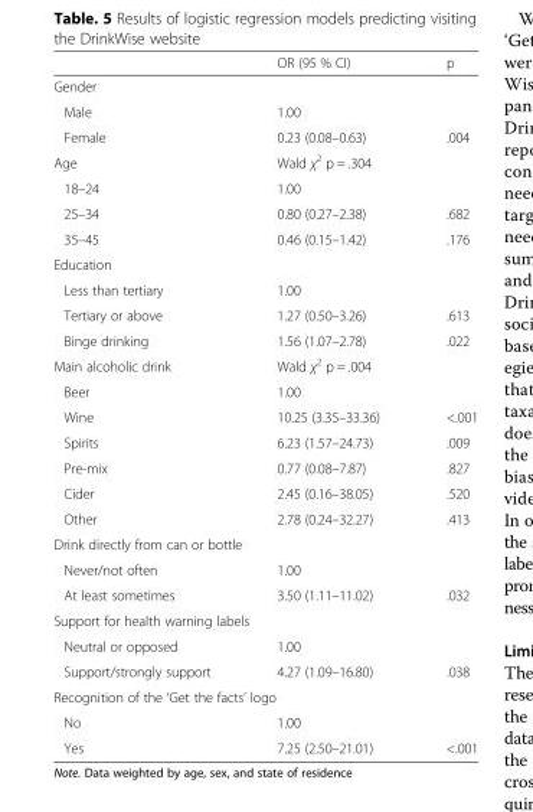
<table><thead><tr><td></td><td>OR (95 % CI)</td><td>p</td></tr></thead><tbody><tr><td colspan="3">Gender</td></tr><tr><td>Male</td><td>1.00</td><td></td></tr><tr><td>Female</td><td>0.23 (0.08–0.63)</td><td>.004</td></tr><tr><td>Age</td><td>Wald χ<sup>2</sup> p = .304</td><td></td></tr><tr><td>18–24</td><td>1.00</td><td></td></tr><tr><td>25–34</td><td>0.80 (0.27–2.38)</td><td>.682</td></tr><tr><td>35–45</td><td>0.46 (0.15–1.42)</td><td>.176</td></tr><tr><td colspan="3">Education</td></tr><tr><td>Less than tertiary</td><td>1.00</td><td></td></tr><tr><td>Tertiary or above</td><td>1.27 (0.50–3.26)</td><td>.613</td></tr><tr><td>Binge drinking</td><td>1.56 (1.07–2.78)</td><td>.022</td></tr><tr><td>Main alcoholic drink</td><td>Wald χ<sup>2</sup> p = .004</td><td></td></tr><tr><td>Beer</td><td>1.00</td><td></td></tr><tr><td>Wine</td><td>10.25 (3.35–33.36)</td><td>&lt;.001</td></tr><tr><td>Spirits</td><td>6.23 (1.57–24.73)</td><td>.009</td></tr><tr><td>Pre-mix</td><td>0.77 (0.08–7.87)</td><td>.827</td></tr><tr><td>Cider</td><td>2.45 (0.16–38.05)</td><td>.520</td></tr><tr><td>Other</td><td>2.78 (0.24–32.27)</td><td>.413</td></tr><tr><td colspan="3">Drink directly from can or bottle</td></tr><tr><td>Never/not often</td><td>1.00</td><td></td></tr><tr><td>At least sometimes</td><td>3.50 (1.11–11.02)</td><td>.032</td></tr><tr><td colspan="3">Support for health warning labels</td></tr><tr><td>Neutral or opposed</td><td>1.00</td><td></td></tr><tr><td>Support/strongly support</td><td>4.27 (1.09–16.80)</td><td>.038</td></tr><tr><td colspan="3">Recognition of the ‘Get the facts’ logo</td></tr><tr><td>No</td><td>1.00</td><td></td></tr><tr><td>Yes</td><td>7.25 (2.50–21.01)</td><td>&lt;.001</td></tr></tbody></table>